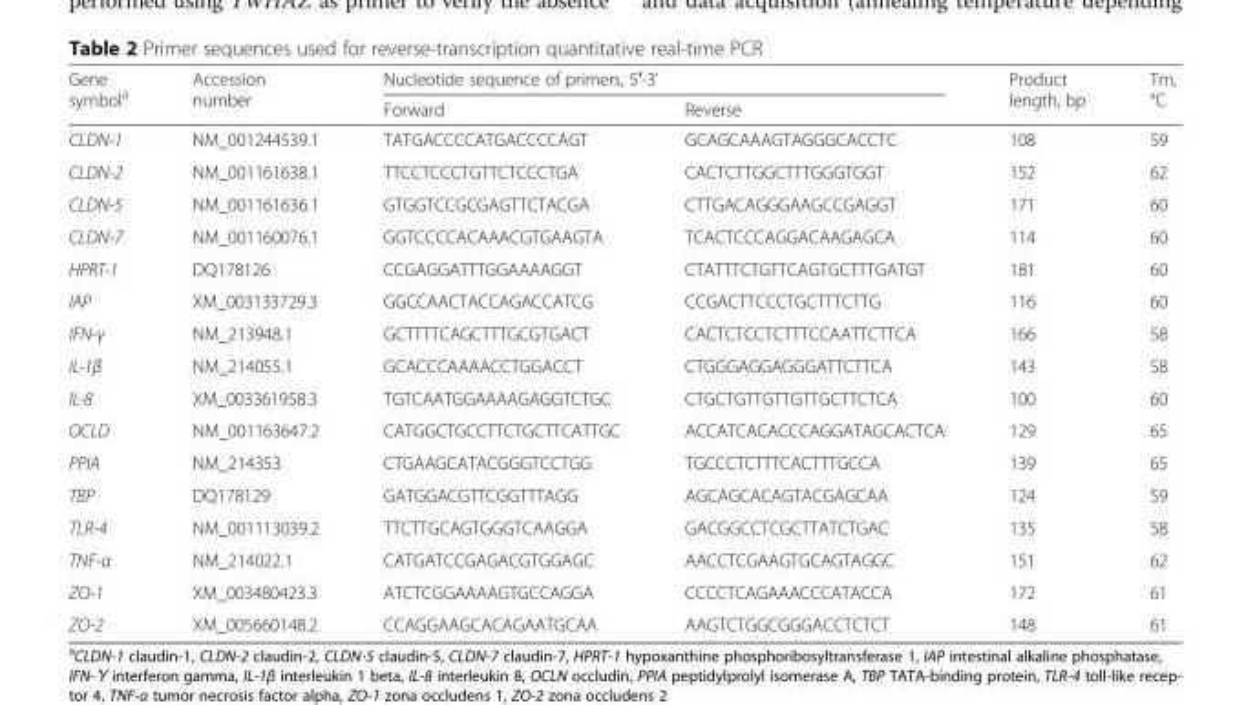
<table><thead><tr><td rowspan="2">Gene symbol<sup>a</sup></td><td rowspan="2">Accession number</td><td colspan="2">Nucleotide sequence of primers, 5′-3’</td><td rowspan="2">Product length, bp</td><td rowspan="2">Tm, °C</td></tr><tr><td>Forward</td><td>Reverse</td></tr></thead><tbody><tr><td>CLDN-1</td><td>NM_001244539.1</td><td>TATGACCCCATGACCCCAGT</td><td>GCAGCAAAGTAGGGCACCTC</td><td>108</td><td>59</td></tr><tr><td>CLDN-2</td><td>NM_001161638.1</td><td>TTCCTCCCTGTTCTCCCTGA</td><td>CACTCTTGGCTTTGGGTGGT</td><td>152</td><td>62</td></tr><tr><td>CLDN-5</td><td>NM_001161636.1</td><td>GTGGTCCGCGAGTTCTACGA</td><td>CTTGACAGGGAAGCCGAGGT</td><td>171</td><td>60</td></tr><tr><td>CLDN-7</td><td>NM_001160076.1</td><td>GGTCCCCACAAACGTGAAGTA</td><td>TCACTCCCAGGACAAGAGCA</td><td>114</td><td>60</td></tr><tr><td>HPRT-1</td><td>DQ178126</td><td>CCGAGGATTTGGAAAAGGT</td><td>CTATTTCTGTTCAGTGCTTTGATGT</td><td>181</td><td>60</td></tr><tr><td>IAP</td><td>XM_003133729.3</td><td>GGCCAACTACCAGACCATCG</td><td>CCGACTTCCCTGCTTTCTTG</td><td>116</td><td>60</td></tr><tr><td>IFN-γ</td><td>NM_213948.1</td><td>GCTTTTCAGCTTTGCGTGACT</td><td>CACTCTCCTCTTTCCAATTCTTCA</td><td>166</td><td>58</td></tr><tr><td>IL-1β</td><td>NM_214055.1</td><td>GCACCCAAAACCTGGACCT</td><td>CTGGGAGGAGGGATTCTTCA</td><td>143</td><td>58</td></tr><tr><td>IL-8</td><td>XM_003361958.3</td><td>TGTCAATGGAAAAGAGGTCTGC</td><td>CTGCTGTTGTTGTTGCTTCTCA</td><td>100</td><td>60</td></tr><tr><td>OCLD</td><td>NM_001163647.2</td><td>CATGGCTGCCTTCTGCTTCATTGC</td><td>ACCATCACACCCAGGATAGCACTCA</td><td>129</td><td>65</td></tr><tr><td>PPIA</td><td>NM_214353</td><td>CTGAAGCATACGGGTCCTGG</td><td>TGCCCTCTTTCACTTTGCCA</td><td>139</td><td>65</td></tr><tr><td>TBP</td><td>DQ178129</td><td>GATGGACGTTCGGTTTAGG</td><td>AGCAGCACAGTACGAGCAA</td><td>124</td><td>59</td></tr><tr><td>TLR-4</td><td>NM_001113039.2</td><td>TTCTTGCAGTGGGTCAAGGA</td><td>GACGGCCTCGCTTATCTGAC</td><td>135</td><td>58</td></tr><tr><td>TNF-α</td><td>NM_214022.1</td><td>CATGATCCGAGACGTGGAGC</td><td>AACCTCGAAGTGCAGTAGGC</td><td>151</td><td>62</td></tr><tr><td>ZO-1</td><td>XM_003480423.3</td><td>ATCTCGGAAAAGTGCCAGGA</td><td>CCCCTCAGAAACCCATACCA</td><td>172</td><td>61</td></tr><tr><td>ZO-2</td><td>XM_005660148.2</td><td>CCAGGAAGCACAGAATGCAA</td><td>AAGTCTGGCGGGACCTCTCT</td><td>148</td><td>61</td></tr></tbody></table>